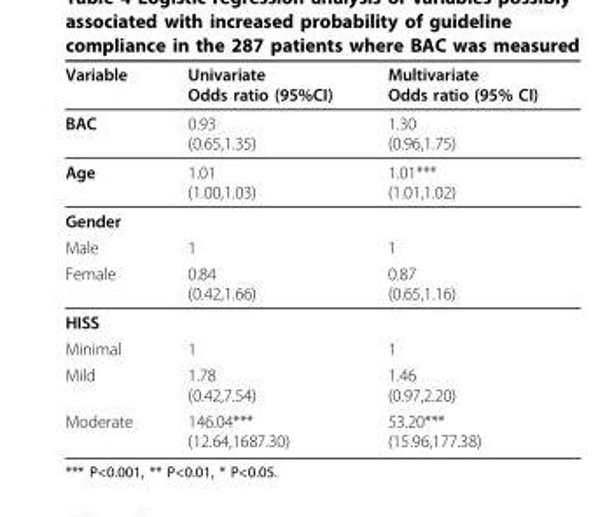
<table><thead><tr><td>Variable</td><td>Univariate Odds ratio (95%CI)</td><td>Multivariate Odds ratio (95% CI)</td></tr></thead><tbody><tr><td>BAC</td><td>0.93 (0.65,1.35)</td><td>1.30 (0.96,1.75)</td></tr><tr><td>Age</td><td>1.01 (1.00,1.03)</td><td>1.01*** (1.01,1.02)</td></tr><tr><td colspan="3">Gender</td></tr><tr><td>Male</td><td>1</td><td>1</td></tr><tr><td>Female</td><td>0.84 (0.42,1.66)</td><td>0.87 (0.65,1.16)</td></tr><tr><td colspan="3">HISS</td></tr><tr><td>Minimal</td><td>1</td><td>1</td></tr><tr><td>Mild</td><td>1.78 (0.42,7.54)</td><td>1.46 (0.97,2.20)</td></tr><tr><td>Moderate</td><td>146.04*** (12.64,1687.30)</td><td>53.20*** (15.96,177.38)</td></tr></tbody></table>